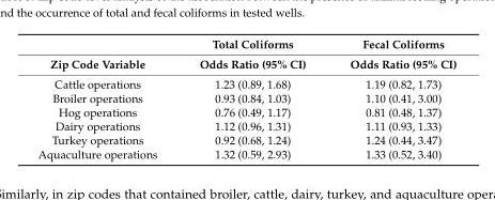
<table><thead><tr><td rowspan="2">Zip Code Variable</td><td rowspan="2">Total Coliforms Odds Ratio (95% CI)</td><td rowspan="2">Fecal Coliforms Odds Ratio (95% CI)</td></tr><tr></tr></thead><tbody><tr><td>Cattle operations</td><td>1.23 (0.89, 1.68)</td><td>1.19 (0.82, 1.73)</td></tr><tr><td>Broiler operations</td><td>0.93 (0.84, 1.03)</td><td>1.10 (0.41, 3.00)</td></tr><tr><td>Hog operations</td><td>0.76 (0.49, 1.17)</td><td>0.81 (0.48, 1.37)</td></tr><tr><td>Dairy operations</td><td>1.12 (0.96, 1.31)</td><td>1.11 (0.93, 1.33)</td></tr><tr><td>Turkey operations</td><td>0.92 (0.68, 1.24)</td><td>1.24 (0.44, 3.47)</td></tr><tr><td>Aquaculture operations</td><td>1.32 (0.59, 2.93)</td><td>1.33 (0.52, 3.40)</td></tr></tbody></table>